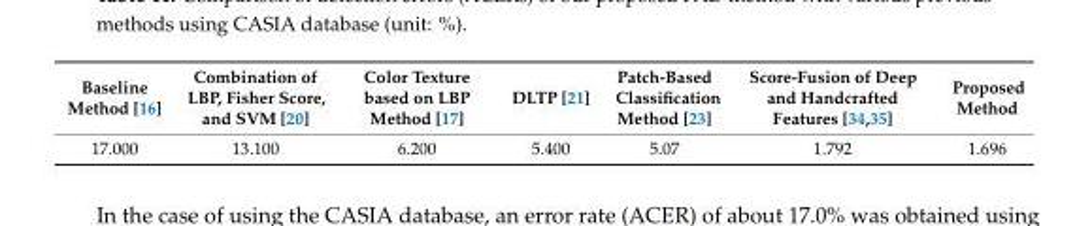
<table><thead><tr><td>Baseline Method [16]</td><td>Combination of LBP, Fisher Score, and SVM [20]</td><td>Color Texture based on LBP Method [17]</td><td>DLTP [21]</td><td>Patch-Based Classification Method [23]</td><td>Score-Fusion of Deep and Handcrafted Features [34,35]</td><td>Proposed Method</td></tr></thead><tbody><tr><td>17.000</td><td>13.100</td><td>6.200</td><td>5.400</td><td>5.07</td><td>1.792</td><td>1.696</td></tr></tbody></table>